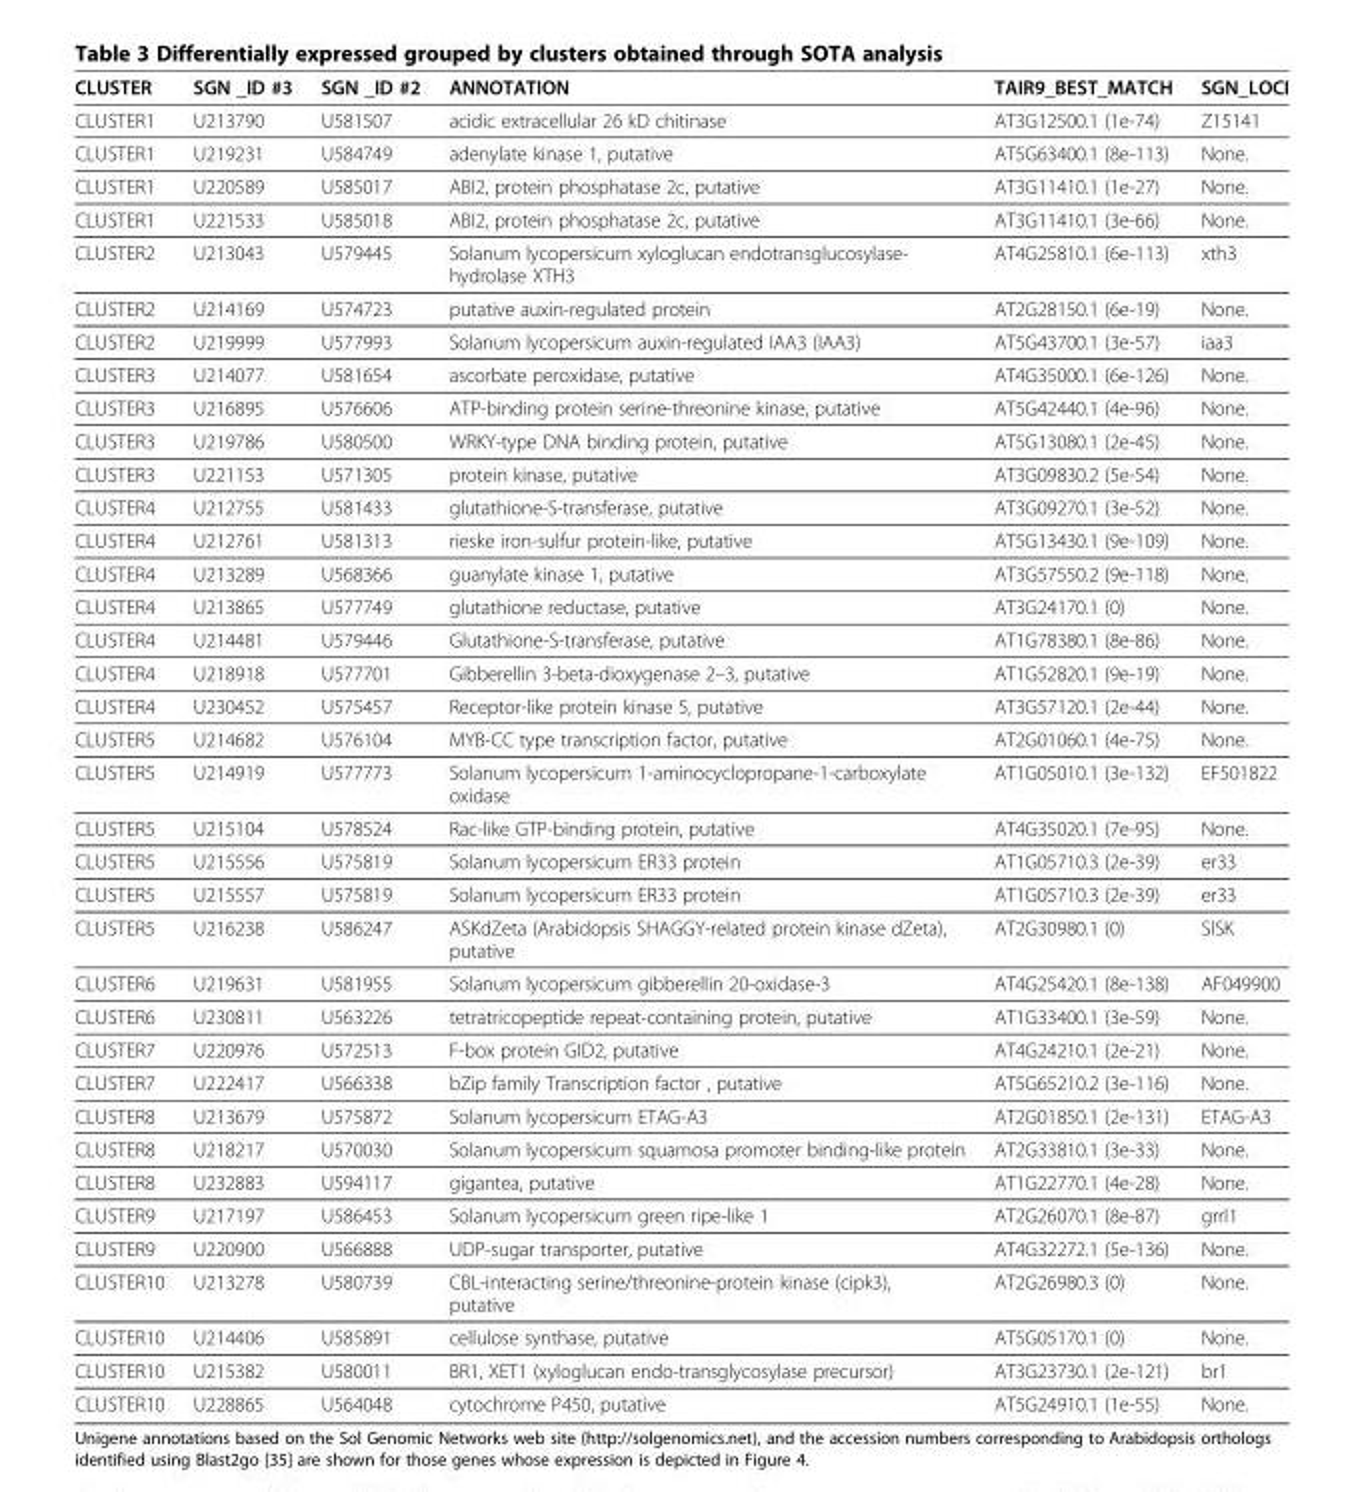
<table><thead><tr><td>CLUSTER</td><td>SGN _ID #3</td><td>SGN _ID #2</td><td>ANNOTATION</td><td>TAIR9_BEST_MATCH</td><td>SGN_LOCI</td></tr></thead><tbody><tr><td>CLUSTER1</td><td>U213790</td><td>U581507</td><td>acidic extracellular 26 kD chitinase</td><td>AT3G12500.1 (1e-74)</td><td>Z15141</td></tr><tr><td>CLUSTER1</td><td>U219231</td><td>U584749</td><td>adenylate kinase 1, putative</td><td>AT5G63400.1 (8e-113)</td><td>None.</td></tr><tr><td>CLUSTER1</td><td>U220589</td><td>U585017</td><td>ABI2, protein phosphatase 2c, putative</td><td>AT3G11410.1 (1e-27)</td><td>None.</td></tr><tr><td>CLUSTER1</td><td>U221533</td><td>U585018</td><td>ABI2, protein phosphatase 2c, putative</td><td>AT3G11410.1 (3e-66)</td><td>None.</td></tr><tr><td>CLUSTER2</td><td>U213043</td><td>U579445</td><td>Solanum lycopersicum xyloglucan endotransglucosylase- hydrolase XTH3</td><td>AT4G25810.1 (6e-113)</td><td>xth3</td></tr><tr><td>CLUSTER2</td><td>U214169</td><td>U574723</td><td>putative auxin-regulated protein</td><td>AT2G28150.1 (6e-19)</td><td>None.</td></tr><tr><td>CLUSTER2</td><td>U219999</td><td>U577993</td><td>Solanum lycopersicum auxin-regulated IAA3 (IAA3)</td><td>AT5G43700.1 (3e-57)</td><td>iaa3</td></tr><tr><td>CLUSTER3</td><td>U214077</td><td>U581654</td><td>ascorbate peroxidase, putative</td><td>AT4G35000.1 (6e-126)</td><td>None.</td></tr><tr><td>CLUSTER3</td><td>U216895</td><td>U576606</td><td>ATP-binding protein serine-threonine kinase, putative</td><td>AT5G42440.1 (4e-96)</td><td>None.</td></tr><tr><td>CLUSTER3</td><td>U219786</td><td>U580500</td><td>WRKY-type DNA binding protein, putative</td><td>AT5G13080.1 (2e-45)</td><td>None.</td></tr><tr><td>CLUSTER3</td><td>U221153</td><td>U571305</td><td>protein kinase, putative</td><td>AT3G09830.2 (5e-54)</td><td>None.</td></tr><tr><td>CLUSTER4</td><td>U212755</td><td>U581433</td><td>glutathione-S-transferase, putative</td><td>AT3G09270.1 (3e-52)</td><td>None.</td></tr><tr><td>CLUSTER4</td><td>U212761</td><td>U581313</td><td>rieske iron-sulfur protein-like, putative</td><td>AT5G13430.1 (9e-109)</td><td>None.</td></tr><tr><td>CLUSTER4</td><td>U213289</td><td>U568366</td><td>guanylate kinase 1, putative</td><td>AT3G57550.2 (9e-118)</td><td>None.</td></tr><tr><td>CLUSTER4</td><td>U213865</td><td>U577749</td><td>glutathione reductase, putative</td><td>AT3G24170.1 (0)</td><td>None.</td></tr><tr><td>CLUSTER4</td><td>U214481</td><td>U579446</td><td>Glutathione-S-transferase, putative</td><td>AT1G78380.1 (8e-86)</td><td>None.</td></tr><tr><td>CLUSTER4</td><td>U218918</td><td>U577701</td><td>Gibberellin 3-beta-dioxygenase 2–3, putative</td><td>AT1G52820.1 (9e-19)</td><td>None.</td></tr><tr><td>CLUSTER4</td><td>U230452</td><td>U575457</td><td>Receptor-like protein kinase 5, putative</td><td>AT3G57120.1 (2e-44)</td><td>None.</td></tr><tr><td>CLUSTER5</td><td>U214682</td><td>U576104</td><td>MYB-CC type transcription factor, putative</td><td>AT2G01060.1 (4e-75)</td><td>None.</td></tr><tr><td>CLUSTER5</td><td>U214919</td><td>U577773</td><td>Solanum lycopersicum 1-aminocyclopropane-1-carboxylate oxidase</td><td>AT1G05010.1 (3e-132)</td><td>EF501822</td></tr><tr><td>CLUSTER5</td><td>U215104</td><td>U578524</td><td>Rac-like GTP-binding protein, putative</td><td>AT4G35020.1 (7e-95)</td><td>None.</td></tr><tr><td>CLUSTER5</td><td>U215556</td><td>U575819</td><td>Solanum lycopersicum ER33 protein</td><td>AT1G05710.3 (2e-39)</td><td>er33</td></tr><tr><td>CLUSTER5</td><td>U215557</td><td>U575819</td><td>Solanum lycopersicum ER33 protein</td><td>AT1G05710.3 (2e-39)</td><td>er33</td></tr><tr><td>CLUSTER5</td><td>U216238</td><td>U586247</td><td>ASKdZeta (Arabidopsis SHAGGY-related protein kinase dZeta), putative</td><td>AT2G30980.1 (0)</td><td>SlSK</td></tr><tr><td>CLUSTER6</td><td>U219631</td><td>U581955</td><td>Solanum lycopersicum gibberellin 20-oxidase-3</td><td>AT4G25420.1 (8e-138)</td><td>AF049900</td></tr><tr><td>CLUSTER6</td><td>U230811</td><td>U563226</td><td>tetratricopeptide repeat-containing protein, putative</td><td>AT1G33400.1 (3e-59)</td><td>None.</td></tr><tr><td>CLUSTER7</td><td>U220976</td><td>U572513</td><td>F-box protein GID2, putative</td><td>AT4G24210.1 (2e-21)</td><td>None.</td></tr><tr><td>CLUSTER7</td><td>U222417</td><td>U566338</td><td>bZip family Transcription factor , putative</td><td>AT5G65210.2 (3e-116)</td><td>None.</td></tr><tr><td>CLUSTER8</td><td>U213679</td><td>U575872</td><td>Solanum lycopersicum ETAG-A3</td><td>AT2G01850.1 (2e-131)</td><td>ETAG-A3</td></tr><tr><td>CLUSTER8</td><td>U218217</td><td>U570030</td><td>Solanum lycopersicum squamosa promoter binding-like protein</td><td>AT2G33810.1 (3e-33)</td><td>None.</td></tr><tr><td>CLUSTER8</td><td>U232883</td><td>U594117</td><td>gigantea, putative</td><td>AT1G22770.1 (4e-28)</td><td>None.</td></tr><tr><td>CLUSTER9</td><td>U217197</td><td>U586453</td><td>Solanum lycopersicum green ripe-like 1</td><td>AT2G26070.1 (8e-87)</td><td>grrl1</td></tr><tr><td>CLUSTER9</td><td>U220900</td><td>U566888</td><td>UDP-sugar transporter, putative</td><td>AT4G32272.1 (5e-136)</td><td>None.</td></tr><tr><td>CLUSTER10</td><td>U213278</td><td>U580739</td><td>CBL-interacting serine/threonine-protein kinase (cipk3), putative</td><td>AT2G26980.3 (0)</td><td>None.</td></tr><tr><td>CLUSTER10</td><td>U214406</td><td>U585891</td><td>cellulose synthase, putative</td><td>AT5G05170.1 (0)</td><td>None.</td></tr><tr><td>CLUSTER10</td><td>U215382</td><td>U580011</td><td>BR1, XET1 (xyloglucan endo-transglycosylase precursor)</td><td>AT3G23730.1 (2e-121)</td><td>br1</td></tr><tr><td>CLUSTER10</td><td>U228865</td><td>U564048</td><td>cytochrome P450, putative</td><td>AT5G24910.1 (1e-55)</td><td>None.</td></tr></tbody></table>